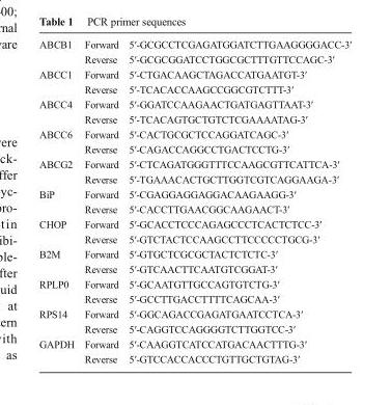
<table><tbody><tr><td rowspan="2">ABCB1</td><td>Forward</td><td>5′-GCGCCTCGAGATGGATCTTGAAGGGGACC-3′</td></tr><tr><td>Reverse</td><td>5′-GCGCGGATCCTGGCGCTTTGTTCCAGC-3′</td></tr><tr><td rowspan="2">ABCC1</td><td>Forward</td><td>5′-CTGACAAGCTAGACCATGAATGT-3′</td></tr><tr><td>Reverse</td><td>5′-TCACACCAAGCCGGCGTCTTT-3′</td></tr><tr><td rowspan="2">ABCC4</td><td>Forward</td><td>5′-GGATCCAAGAACTGATGAGTTAAT-3′</td></tr><tr><td>Reverse</td><td>5′-TCACAGTGCTGTCTCGAAAATAG-3′</td></tr><tr><td rowspan="2">ABCC6</td><td>Forward</td><td>5′-CACTGCGCTCCAGGATCAGC-3′</td></tr><tr><td>Reverse</td><td>5′-CAGACCAGGCCTGACTCCTG-3′</td></tr><tr><td rowspan="2">ABCG2</td><td>Forward</td><td>5′-CTCAGATGGGTTTCCAAGCGTTCATTCA-3′</td></tr><tr><td>Reverse</td><td>5′-TGAAACACTGCTTGGTCGTCAGGAAGA-3′</td></tr><tr><td rowspan="2">BiP</td><td>Forward</td><td>5′-CGAGGAGGAGGACAAGAAGG-3′</td></tr><tr><td>Reverse</td><td>5′-CACCTTGAACGGCAAGAACT-3′</td></tr><tr><td rowspan="2">CHOP</td><td>Forward</td><td>5′-GCACCTCCCAGAGCCCTCACTCTCC-3′</td></tr><tr><td>Reverse</td><td>5′-GTCTACTCCAAGCCTTCCCCCTGCG-3′</td></tr><tr><td rowspan="2">B2M</td><td>Forward</td><td>5′-GTGCTCGCGCTACTCTCTC-3′</td></tr><tr><td>Reverse</td><td>5′-GTCAACTTCAATGTCGGAT-3′</td></tr><tr><td rowspan="2">RPLP0</td><td>Forward</td><td>5′-GCAATGTTGCCAGTGTCTG-3′</td></tr><tr><td>Reverse</td><td>5′-GCCTTGACCTTTTCAGCAA-3′</td></tr><tr><td rowspan="2">RPS14</td><td>Forward</td><td>5′-GGCAGACCGAGATGAATCCTCA-3′</td></tr><tr><td>Reverse</td><td>5′-CAGGTCCAGGGGTCTTGGTCC-3′</td></tr><tr><td rowspan="2">GAPDH</td><td>Forward</td><td>5′-CAAGGTCATCCATGACAACTTTG-3′</td></tr><tr><td>Reverse</td><td>5′-GTCCACCACCCTGTTGCTGTAG-3′</td></tr></tbody></table>